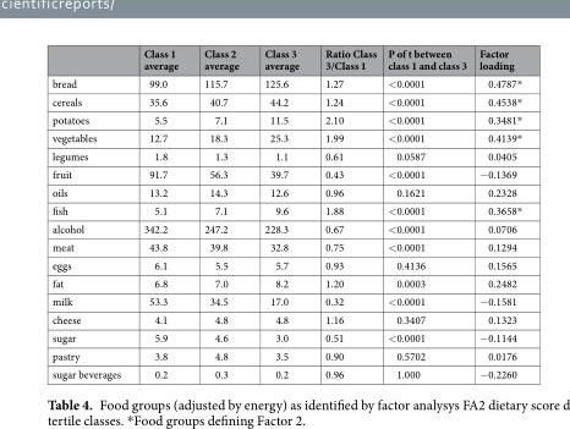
<table><thead><tr><td></td><td>Class 1 average</td><td>Class 2 average</td><td>Class 3 average</td><td>Ratio Class 3/Class 1</td><td>P of t between class 1 and class 3</td><td>Factor loading</td></tr></thead><tbody><tr><td>bread</td><td>99.0</td><td>115.7</td><td>125.6</td><td>1.27</td><td>&lt;0.0001</td><td>0.4787*</td></tr><tr><td>cereals</td><td>35.6</td><td>40.7</td><td>44.2</td><td>1.24</td><td>&lt;0.0001</td><td>0.4538*</td></tr><tr><td>potatoes</td><td>5.5</td><td>7.1</td><td>11.5</td><td>2.10</td><td>&lt;0.0001</td><td>0.3481*</td></tr><tr><td>vegetables</td><td>12.7</td><td>18.3</td><td>25.3</td><td>1.99</td><td>&lt;0.0001</td><td>0.4139*</td></tr><tr><td>legumes</td><td>1.8</td><td>1.3</td><td>1.1</td><td>0.61</td><td>0.0587</td><td>0.0405</td></tr><tr><td>fruit</td><td>91.7</td><td>56.3</td><td>39.7</td><td>0.43</td><td>&lt;0.0001</td><td>−0.1369</td></tr><tr><td>oils</td><td>13.2</td><td>14.3</td><td>12.6</td><td>0.96</td><td>0.1621</td><td>0.2328</td></tr><tr><td>fish</td><td>5.1</td><td>7.1</td><td>9.6</td><td>1.88</td><td>&lt;0.0001</td><td>0.3658*</td></tr><tr><td>alcohol</td><td>342.2</td><td>247.2</td><td>228.3</td><td>0.67</td><td>&lt;0.0001</td><td>0.0706</td></tr><tr><td>meat</td><td>43.8</td><td>39.8</td><td>32.8</td><td>0.75</td><td>&lt;0.0001</td><td>0.1294</td></tr><tr><td>eggs</td><td>6.1</td><td>5.5</td><td>5.7</td><td>0.93</td><td>0.4136</td><td>0.1565</td></tr><tr><td>fat</td><td>6.8</td><td>7.0</td><td>8.2</td><td>1.20</td><td>0.0003</td><td>0.2482</td></tr><tr><td>milk</td><td>53.3</td><td>34.5</td><td>17.0</td><td>0.32</td><td>&lt;0.0001</td><td>−0.1581</td></tr><tr><td>cheese</td><td>4.1</td><td>4.8</td><td>4.8</td><td>1.16</td><td>0.3407</td><td>0.1323</td></tr><tr><td>sugar</td><td>5.9</td><td>4.6</td><td>3.0</td><td>0.51</td><td>&lt;0.0001</td><td>−0.1144</td></tr><tr><td>pastry</td><td>3.8</td><td>4.8</td><td>3.5</td><td>0.90</td><td>0.5702</td><td>0.0176</td></tr><tr><td>sugar beverages</td><td>0.2</td><td>0.3</td><td>0.2</td><td>0.96</td><td>1.000</td><td>−0.2260</td></tr></tbody></table>